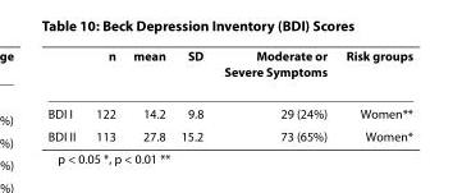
<table><thead><tr><td></td><td>n</td><td>mean</td><td>SD</td><td>Moderate or Severe Symptoms</td><td>Risk groups</td></tr></thead><tbody><tr><td>BDI I</td><td>122</td><td>14.2</td><td>9.8</td><td>29 (24%)</td><td>Women**</td></tr><tr><td>BDI II</td><td>113</td><td>27.8</td><td>15.2</td><td>73 (65%)</td><td>Women*</td></tr></tbody></table>